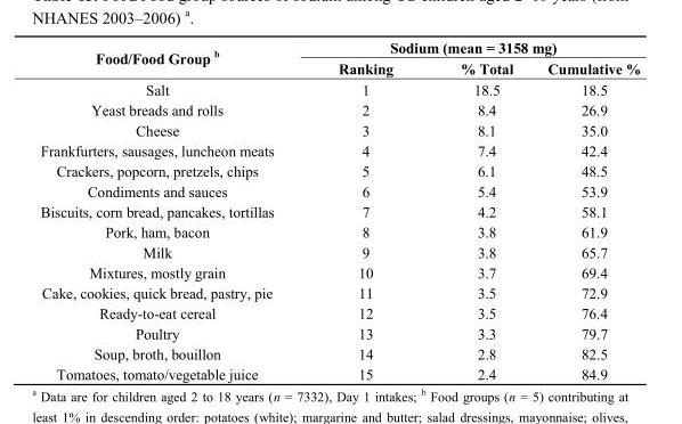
<table><thead><tr><td rowspan="2">Food/Food Group <sup>b</sup></td><td colspan="3">Sodium (mean = 3158 mg)</td></tr><tr><td>Ranking</td><td>% Total</td><td>Cumulative %</td></tr></thead><tbody><tr><td>Salt</td><td>1</td><td>18.5</td><td>18.5</td></tr><tr><td>Yeast breads and rolls</td><td>2</td><td>8.4</td><td>26.9</td></tr><tr><td>Cheese</td><td>3</td><td>8.1</td><td>35.0</td></tr><tr><td>Frankfurters, sausages, luncheon meats</td><td>4</td><td>7.4</td><td>42.4</td></tr><tr><td>Crackers, popcorn, pretzels, chips</td><td>5</td><td>6.1</td><td>48.5</td></tr><tr><td>Condiments and sauces</td><td>6</td><td>5.4</td><td>53.9</td></tr><tr><td>Biscuits, corn bread, pancakes, tortillas</td><td>7</td><td>4.2</td><td>58.1</td></tr><tr><td>Pork, ham, bacon</td><td>8</td><td>3.8</td><td>61.9</td></tr><tr><td>Milk</td><td>9</td><td>3.8</td><td>65.7</td></tr><tr><td>Mixtures, mostly grain</td><td>10</td><td>3.7</td><td>69.4</td></tr><tr><td>Cake, cookies, quick bread, pastry, pie</td><td>11</td><td>3.5</td><td>72.9</td></tr><tr><td>Ready-to-eat cereal</td><td>12</td><td>3.5</td><td>76.4</td></tr><tr><td>Poultry</td><td>13</td><td>3.3</td><td>79.7</td></tr><tr><td>Soup, broth, bouillon</td><td>14</td><td>2.8</td><td>82.5</td></tr><tr><td>Tomatoes, tomato/vegetable juice</td><td>15</td><td>2.4</td><td>84.9</td></tr></tbody></table>